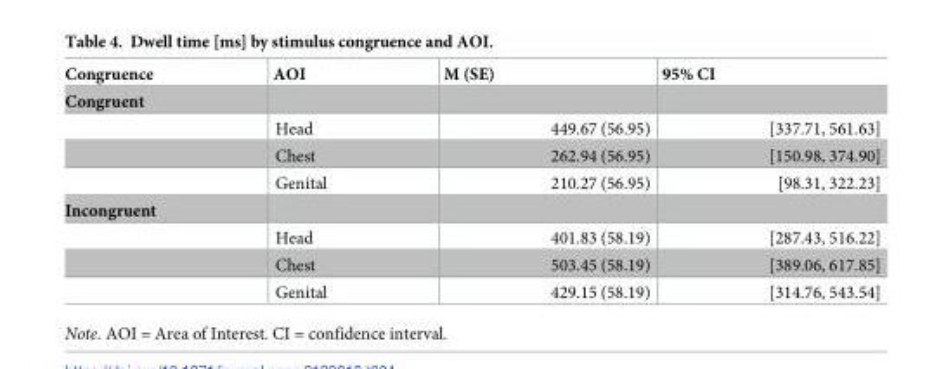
<table><thead><tr><td>Congruence</td><td>AOI</td><td>M (SE)</td><td>95% CI</td></tr></thead><tbody><tr><td colspan="4">Congruent</td></tr><tr><td></td><td>Head</td><td>449.67 (56.95)</td><td>[337.71, 561.63]</td></tr><tr><td></td><td>Chest</td><td>262.94 (56.95)</td><td>[150.98, 374.90]</td></tr><tr><td></td><td>Genital</td><td>210.27 (56.95)</td><td>[98.31, 322.23]</td></tr><tr><td colspan="4">Incongruent</td></tr><tr><td></td><td>Head</td><td>401.83 (58.19)</td><td>[287.43, 516.22]</td></tr><tr><td></td><td>Chest</td><td>503.45 (58.19)</td><td>[389.06, 617.85]</td></tr><tr><td></td><td>Genital</td><td>429.15 (58.19)</td><td>[314.76, 543.54]</td></tr></tbody></table>